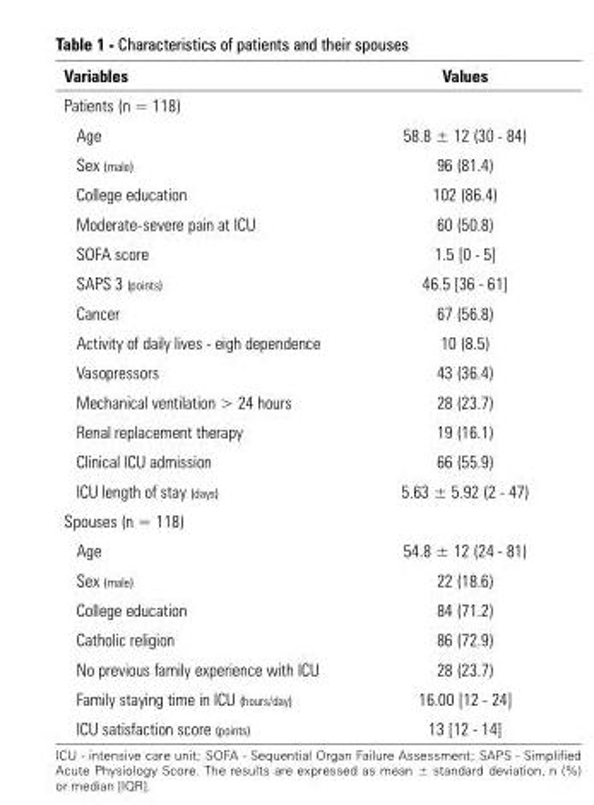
<table><thead><tr><td>Variables</td><td>Values</td></tr></thead><tbody><tr><td colspan="2">Patients (n = 118)</td></tr><tr><td>Age</td><td>58.8 ± 12 (30 - 84)</td></tr><tr><td>Sex (male)</td><td>96 (81.4)</td></tr><tr><td>College education</td><td>102 (86.4)</td></tr><tr><td>Moderate-severe pain at ICU</td><td>60 (50.8)</td></tr><tr><td>SOFA score</td><td>1.5 [0 - 5]</td></tr><tr><td>SAPS 3 (points)</td><td>46.5 [36 - 61]</td></tr><tr><td>Cancer</td><td>67 (56.8)</td></tr><tr><td>Activity of daily lives - eigh dependence</td><td>10 (8.5)</td></tr><tr><td>Vasopressors</td><td>43 (36.4)</td></tr><tr><td>Mechanical ventilation &gt; 24 hours</td><td>28 (23.7)</td></tr><tr><td>Renal replacement therapy</td><td>19 (16.1)</td></tr><tr><td>Clinical ICU admission</td><td>66 (55.9)</td></tr><tr><td>ICU length of stay (days)</td><td>5.63 ± 5.92 (2 - 47)</td></tr><tr><td colspan="2">Spouses (n = 118)</td></tr><tr><td>Age</td><td>54.8 ± 12 (24 - 81)</td></tr><tr><td>Sex (male)</td><td>22 (18.6)</td></tr><tr><td>College education</td><td>84 (71.2)</td></tr><tr><td>Catholic religion</td><td>86 (72.9)</td></tr><tr><td>No previous family experience with ICU</td><td>28 (23.7)</td></tr><tr><td>Family staying time in ICU (hours/day)</td><td>16.00 [12 - 24]</td></tr><tr><td>ICU satisfaction score (points)</td><td>13 [12 - 14]</td></tr></tbody></table>